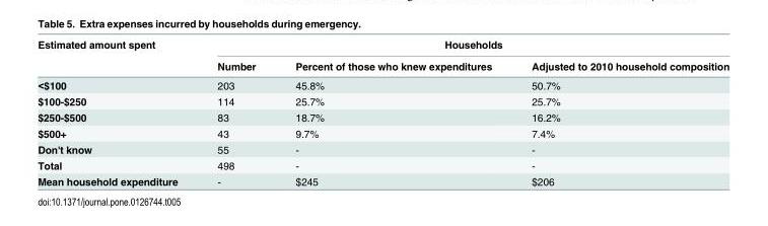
<table><thead><tr><td rowspan="2">Estimated amount spent</td><td colspan="3">Households</td></tr><tr><td>Number</td><td>Percent of those who knew expenditures</td><td>Adjusted to 2010 household composition</td></tr></thead><tbody><tr><td>&lt;$100</td><td>203</td><td>45.8%</td><td>50.7%</td></tr><tr><td>$100-$250</td><td>114</td><td>25.7%</td><td>25.7%</td></tr><tr><td>$250-$500</td><td>83</td><td>18.7%</td><td>16.2%</td></tr><tr><td>$500+</td><td>43</td><td>9.7%</td><td>7.4%</td></tr><tr><td>Don&#x27;t know</td><td>55</td><td>-</td><td>-</td></tr><tr><td>Total</td><td>498</td><td>-</td><td>-</td></tr><tr><td>Mean household expenditure</td><td>-</td><td>$245</td><td>$206</td></tr></tbody></table>